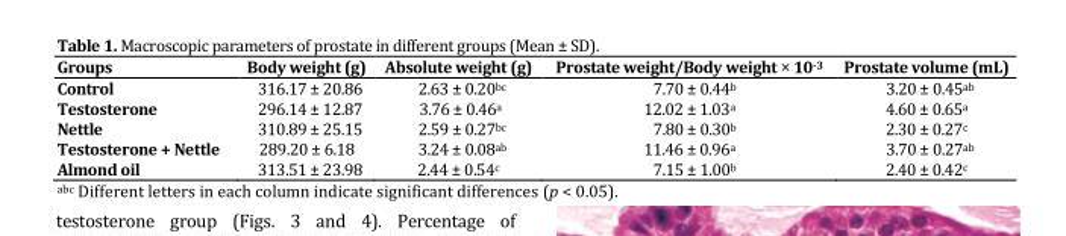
<table><thead><tr><td>Groups</td><td>Body weight (g)</td><td>Absolute weight (g)</td><td>Prostate weight/Body weight × 10<sup>-3</sup></td><td>Prostate volume (mL)</td></tr></thead><tbody><tr><td>Control</td><td>316.17 ± 20.86</td><td>2.63 ± 0.20<sup>bc</sup></td><td>7.70 ± 0.44<sup>b</sup></td><td>3.20 ± 0.45<sup>ab</sup></td></tr><tr><td>Testosterone</td><td>296.14 ± 12.87</td><td>3.76 ± 0.46<sup>a</sup></td><td>12.02 ± 1.03<sup>a</sup></td><td>4.60 ± 0.65<sup>a</sup></td></tr><tr><td>Nettle</td><td>310.89 ± 25.15</td><td>2.59 ± 0.27<sup>bc</sup></td><td>7.80 ± 0.30<sup>b</sup></td><td>2.30 ± 0.27<sup>c</sup></td></tr><tr><td>Testosterone + Nettle</td><td>289.20 ± 6.18</td><td>3.24 ± 0.08<sup>ab</sup></td><td>11.46 ± 0.96<sup>a</sup></td><td>3.70 ± 0.27<sup>ab</sup></td></tr><tr><td>Almond oil</td><td>313.51 ± 23.98</td><td>2.44 ± 0.54<sup>c</sup></td><td>7.15 ± 1.00<sup>b</sup></td><td>2.40 ± 0.42<sup>c</sup></td></tr></tbody></table>